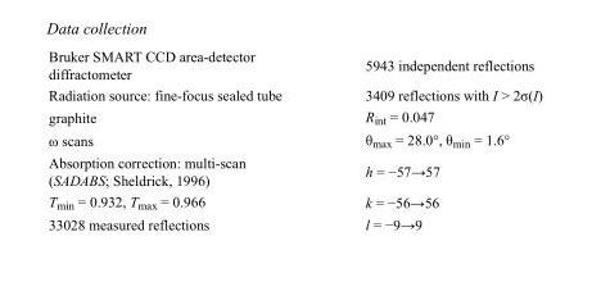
<table><tbody><tr><td>Bruker SMART CCD area-detector diffractometer</td><td>5943 independent reflections</td></tr><tr><td>Radiation source: fine-focus sealed tube</td><td>3409 reflections with I &gt; 2σ(I)</td></tr><tr><td>graphite</td><td>R<sub>int</sub> = 0.047</td></tr><tr><td>ω scans</td><td>θ<sub>max</sub> = 28.0°, θ<sub>min</sub> = 1.6°</td></tr><tr><td>Absorption correction: multi-scan (SADABS; Sheldrick, 1996)</td><td>h = −57→57</td></tr><tr><td>T<sub>min</sub> = 0.932, T<sub>max</sub> = 0.966</td><td>k = −56→56</td></tr><tr><td>33028 measured reflections</td><td>l = −9→9</td></tr></tbody></table>